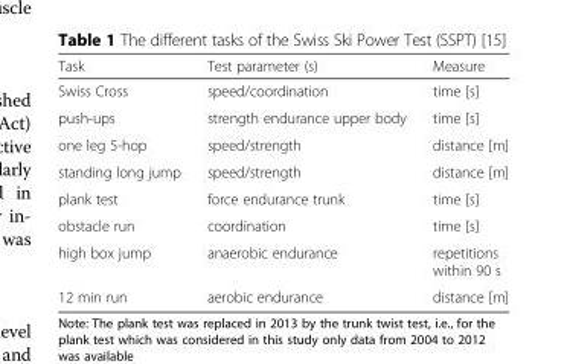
<table><thead><tr><td>Task</td><td>Test parameter (s)</td><td>Measure</td></tr></thead><tbody><tr><td>Swiss Cross</td><td>speed/coordination</td><td>time [s]</td></tr><tr><td>push-ups</td><td>strength endurance upper body</td><td>time [s]</td></tr><tr><td>one leg 5-hop</td><td>speed/strength</td><td>distance [m]</td></tr><tr><td>standing long jump</td><td>speed/strength</td><td>distance [m]</td></tr><tr><td>plank test</td><td>force endurance trunk</td><td>time [s]</td></tr><tr><td>obstacle run</td><td>coordination</td><td>time [s]</td></tr><tr><td>high box jump</td><td>anaerobic endurance</td><td>repetitions within 90 s</td></tr><tr><td>12 min run</td><td>aerobic endurance</td><td>distance [m]</td></tr></tbody></table>